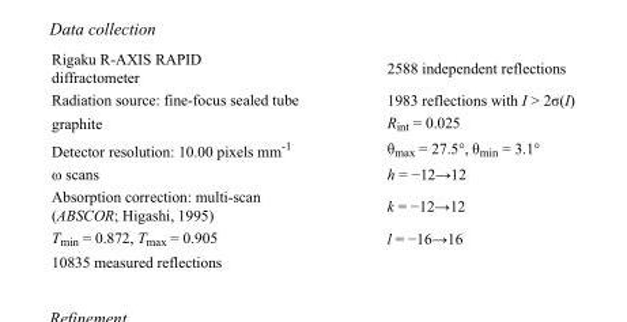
<table><tbody><tr><td>Rigaku R-AXIS RAPID diffractometer</td><td>2588 independent reflections</td></tr><tr><td>Radiation source: fine-focus sealed tube</td><td>1983 reflections with I &gt; 2σ(I)</td></tr><tr><td>graphite</td><td>R<sub>int</sub> = 0.025</td></tr><tr><td>Detector resolution: 10.00 pixels mm<sup>-1</sup></td><td>θ<sub>max</sub> = 27.5°, θ<sub>min</sub> = 3.1°</td></tr><tr><td>ω scans</td><td>h = −12→12</td></tr><tr><td>Absorption correction: multi-scan (ABSCOR; Higashi, 1995)</td><td>k = −12→12</td></tr><tr><td>T<sub>min</sub> = 0.872, T<sub>max</sub> = 0.905</td><td>l = −16→16</td></tr><tr><td>10835 measured reflections</td><td></td></tr></tbody></table>